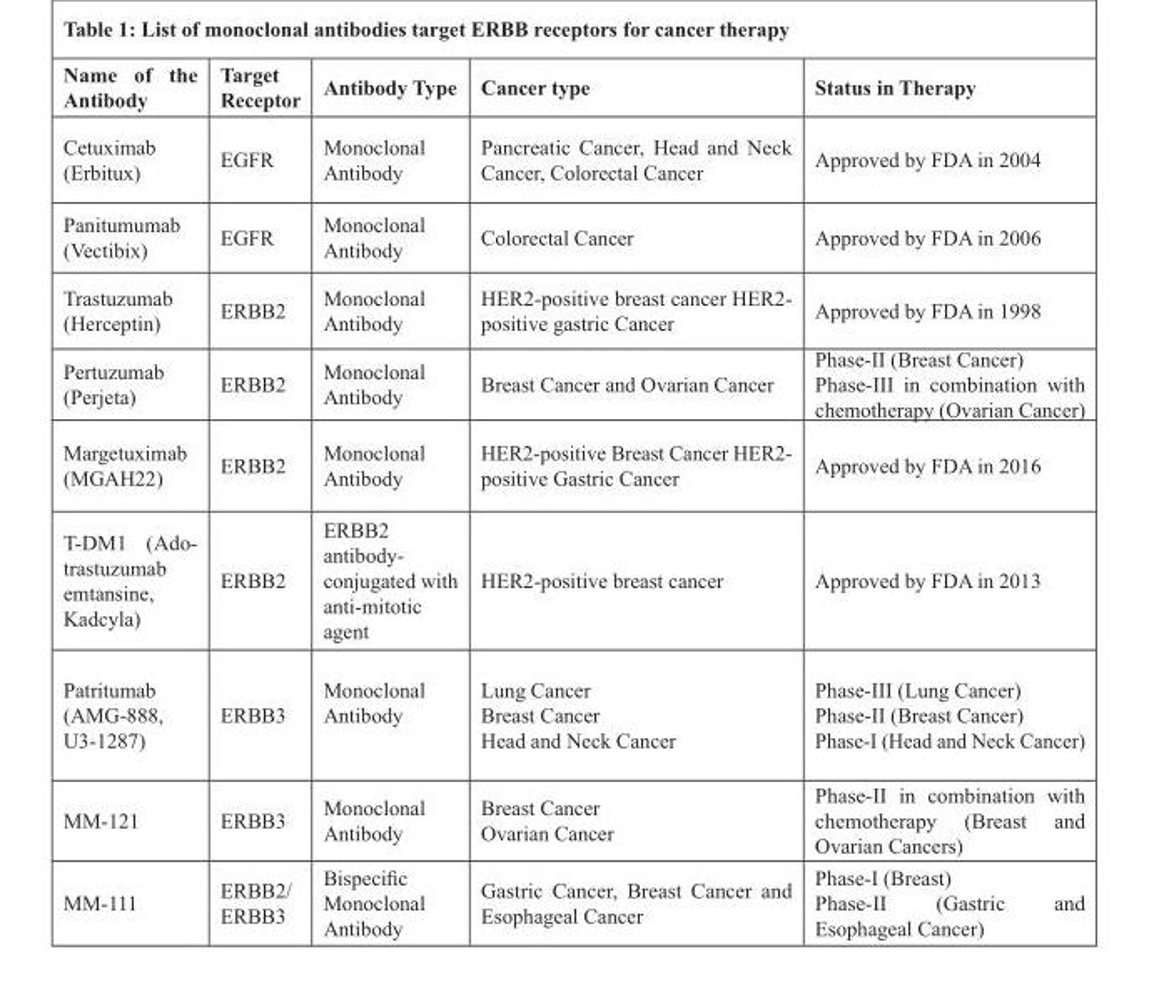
<table><thead><tr><td>Name of the Antibody</td><td>Target Receptor</td><td>Antibody Type</td><td>Cancer type</td><td>Status in Therapy</td></tr></thead><tbody><tr><td>Cetuximab (Erbitux)</td><td>EGFR</td><td>Monoclonal Antibody</td><td>Pancreatic Cancer, Head and Neck Cancer, Colorectal Cancer</td><td>Approved by FDA in 2004</td></tr><tr><td>Panitumumab (Vectibix)</td><td>EGFR</td><td>Monoclonal Antibody</td><td>Colorectal Cancer</td><td>Approved by FDA in 2006</td></tr><tr><td>Trastuzumab (Herceptin)</td><td>ERBB2</td><td>Monoclonal Antibody</td><td>HER2-positive breast cancer HER2- positive gastric Cancer</td><td>Approved by FDA in 1998</td></tr><tr><td>Pertuzumab (Perjeta)</td><td>ERBB2</td><td>Monoclonal Antibody</td><td>Breast Cancer and Ovarian Cancer</td><td>Phase-II (Breast Cancer) Phase-III in combination with chemotherapy (Ovarian Cancer)</td></tr><tr><td>Margetuximab (MGAH22)</td><td>ERBB2</td><td>Monoclonal Antibody</td><td>HER2-positive Breast Cancer HER2- positive Gastric Cancer</td><td>Approved by FDA in 2016</td></tr><tr><td>T-DM1 (Ado- trastuzumab emtansine, Kadcyla)</td><td>ERBB2</td><td>ERBB2 antibody- conjugated with anti-mitotic agent</td><td>HER2-positive breast cancer</td><td>Approved by FDA in 2013</td></tr><tr><td>Patritumab (AMG-888, U3-1287)</td><td>ERBB3</td><td>Monoclonal Antibody</td><td>Lung Cancer Breast Cancer Head and Neck Cancer</td><td>Phase-III (Lung Cancer) Phase-II (Breast Cancer) Phase-I (Head and Neck Cancer)</td></tr><tr><td>MM-121</td><td>ERBB3</td><td>Monoclonal Antibody</td><td>Breast Cancer Ovarian Cancer</td><td>Phase-II in combination with chemotherapy (Breast and Ovarian Cancers)</td></tr><tr><td>MM-111</td><td>ERBB2/ ERBB3</td><td>Bispecific Monoclonal Antibody</td><td>Gastric Cancer, Breast Cancer and Esophageal Cancer</td><td>Phase-I (Breast) Phase-II (Gastric and Esophageal Cancer)</td></tr></tbody></table>